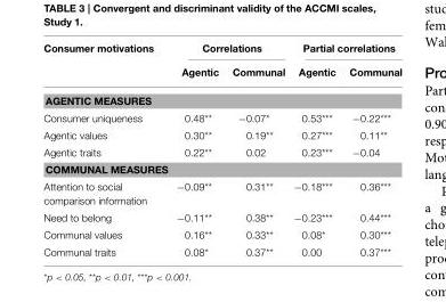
<table><thead><tr><td rowspan="2">Consumer motivations</td><td colspan="2">Correlations</td><td colspan="2">Partial correlations</td></tr><tr><td>Agentic</td><td>Communal</td><td>Agentic</td><td>Communal</td></tr></thead><tbody><tr><td colspan="5">AGENTIC MEASURES</td></tr><tr><td>Consumer uniqueness</td><td>0.48**</td><td>−0.07*</td><td>0.53***</td><td>−0.22***</td></tr><tr><td>Agentic values</td><td>0.30**</td><td>0.19**</td><td>0.27***</td><td>0.11**</td></tr><tr><td>Agentic traits</td><td>0.22**</td><td>0.02</td><td>0.23***</td><td>−0.04</td></tr><tr><td colspan="5">COMMUNAL MEASURES</td></tr><tr><td>Attention to social comparison information</td><td>−0.09**</td><td>0.31**</td><td>−0.18***</td><td>0.36***</td></tr><tr><td>Need to belong</td><td>−0.11**</td><td>0.38**</td><td>−0.23***</td><td>0.44***</td></tr><tr><td>Communal values</td><td>0.16**</td><td>0.33**</td><td>0.08*</td><td>0.30***</td></tr><tr><td>Communal traits</td><td>0.08*</td><td>0.37**</td><td>0.00</td><td>0.37***</td></tr></tbody></table>